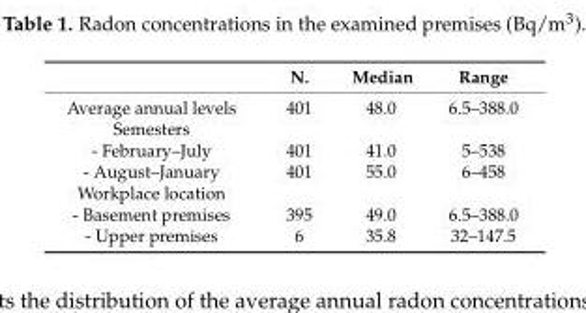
<table><thead><tr><td></td><td>N.</td><td>Median</td><td>Range</td></tr></thead><tbody><tr><td>Average annual levels</td><td>401</td><td>48.0</td><td>6.5–388.0</td></tr><tr><td colspan="4">Semesters</td></tr><tr><td>- February–July</td><td>401</td><td>41.0</td><td>5–538</td></tr><tr><td>- August–January</td><td>401</td><td>55.0</td><td>6–458</td></tr><tr><td colspan="4">Workplace location</td></tr><tr><td>- Basement premises</td><td>395</td><td>49.0</td><td>6.5–388.0</td></tr><tr><td>- Upper premises</td><td>6</td><td>35.8</td><td>32–147.5</td></tr></tbody></table>